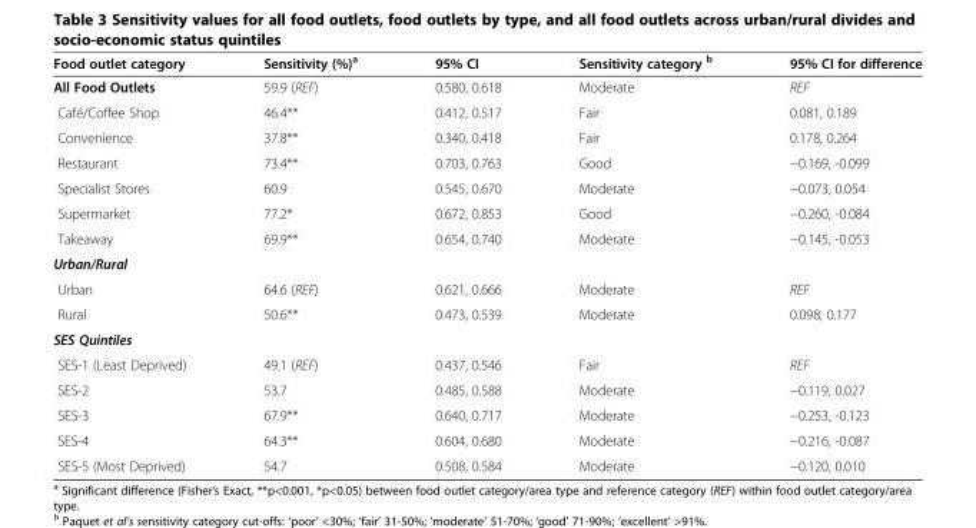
<table><thead><tr><td>Food outlet category</td><td>Sensitivity (%)<sup>a</sup></td><td>95% CI</td><td>Sensitivity category <sup>b</sup></td><td>95% CI for difference</td></tr></thead><tbody><tr><td>All Food Outlets</td><td>59.9 (REF)</td><td>0.580, 0.618</td><td>Moderate</td><td>REF</td></tr><tr><td>Café/Coffee Shop</td><td>46.4**</td><td>0.412, 0.517</td><td>Fair</td><td>0.081, 0.189</td></tr><tr><td>Convenience</td><td>37.8**</td><td>0.340, 0.418</td><td>Fair</td><td>0.178, 0.264</td></tr><tr><td>Restaurant</td><td>73.4**</td><td>0.703, 0.763</td><td>Good</td><td>−0.169, -0.099</td></tr><tr><td>Specialist Stores</td><td>60.9</td><td>0.545, 0.670</td><td>Moderate</td><td>−0.073, 0.054</td></tr><tr><td>Supermarket</td><td>77.2*</td><td>0.672, 0.853</td><td>Good</td><td>−0.260, -0.084</td></tr><tr><td>Takeaway</td><td>69.9**</td><td>0.654, 0.740</td><td>Moderate</td><td>−0.145, -0.053</td></tr><tr><td colspan="5">Urban/Rural</td></tr><tr><td>Urban</td><td>64.6 (REF)</td><td>0.621, 0.666</td><td>Moderate</td><td>REF</td></tr><tr><td>Rural</td><td>50.6**</td><td>0.473, 0.539</td><td>Moderate</td><td>0.098, 0.177</td></tr><tr><td colspan="5">SES Quintiles</td></tr><tr><td>SES-1 (Least Deprived)</td><td>49.1 (REF)</td><td>0.437, 0.546</td><td>Fair</td><td>REF</td></tr><tr><td>SES-2</td><td>53.7</td><td>0.485, 0.588</td><td>Moderate</td><td>−0.119, 0.027</td></tr><tr><td>SES-3</td><td>67.9**</td><td>0.640, 0.717</td><td>Moderate</td><td>−0.253, -0.123</td></tr><tr><td>SES-4</td><td>64.3**</td><td>0.604, 0.680</td><td>Moderate</td><td>−0.216, -0.087</td></tr><tr><td>SES-5 (Most Deprived)</td><td>54.7</td><td>0.508, 0.584</td><td>Moderate</td><td>−0.120, 0.010</td></tr></tbody></table>